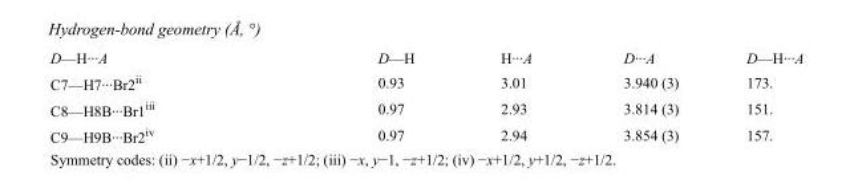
<table><tbody><tr><td>D—H···A</td><td>D—H</td><td>H···A</td><td>D···A</td><td>D—H···A</td></tr><tr><td>C7—H7···Br2<sup>ii</sup></td><td>0.93</td><td>3.01</td><td>3.940 (3)</td><td>173.</td></tr><tr><td>C8—H8B···Br1<sup>iii</sup></td><td>0.97</td><td>2.93</td><td>3.814 (3)</td><td>151.</td></tr><tr><td>C9—H9B···Br2<sup>iv</sup></td><td>0.97</td><td>2.94</td><td>3.854 (3)</td><td>157.</td></tr></tbody></table>